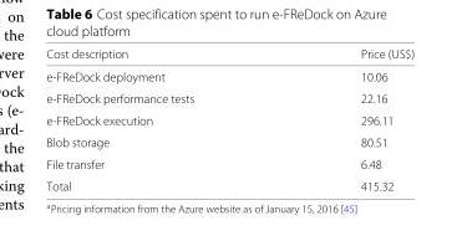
<table><thead><tr><td>Cost description</td><td>Price (US$)</td></tr></thead><tbody><tr><td>e-FReDock deployment</td><td>10.06</td></tr><tr><td>e-FReDock performance tests</td><td>22.16</td></tr><tr><td>e-FReDock execution</td><td>296.11</td></tr><tr><td>Blob storage</td><td>80.51</td></tr><tr><td>File transfer</td><td>6.48</td></tr><tr><td>Total</td><td>415.32</td></tr></tbody></table>